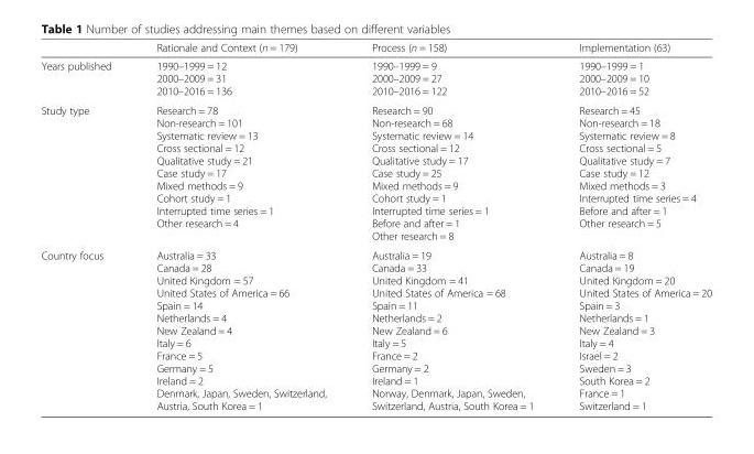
<table><thead><tr><td></td><td>Rationale and Context (n = 179)</td><td>Process (n = 158)</td><td>Implementation (63)</td></tr></thead><tbody><tr><td>Years published</td><td>1990–1999 = 12 2000–2009 = 31 2010–2016 = 136</td><td>1990–1999 = 9 2000–2009 = 27 2010–2016 = 122</td><td>1990–1999 = 1 2000–2009 = 10 2010–2016 = 52</td></tr><tr><td>Study type</td><td>Research = 78 Non-research = 101 Systematic review = 13 Cross sectional = 12 Qualitative study = 21 Case study = 17 Mixed methods = 9 Cohort study = 1 Interrupted time series = 1 Other research = 4</td><td>Research = 90 Non-research = 68 Systematic review = 14 Cross sectional = 12 Qualitative study = 17 Case study = 25 Mixed methods = 9 Cohort study = 1 Interrupted time series = 1 Before and after = 1 Other research = 8</td><td>Research = 45 Non-research = 18 Systematic review = 8 Cross sectional = 5 Qualitative study = 7 Case study = 12 Mixed methods = 3 Interrupted time series = 4 Before and after = 1 Other research = 5</td></tr><tr><td>Country focus</td><td>Australia = 33 Canada = 28 United Kingdom = 57 United States of America = 66 Spain = 14 Netherlands = 4 New Zealand = 4 Italy = 6 France = 5 Germany = 5 Ireland = 2 Denmark, Japan, Sweden, Switzerland, Austria, South Korea = 1</td><td>Australia = 19 Canada = 33 United Kingdom = 41 United States of America = 68 Spain = 11 Netherlands = 2 New Zealand = 6 Italy = 5 France = 2 Germany = 2 Ireland = 1 Norway, Denmark, Japan, Sweden, Switzerland, Austria, South Korea = 1</td><td>Australia = 8 Canada = 19 United Kingdom = 20 United States of America = 20 Spain = 3 Netherlands = 1 New Zealand = 3 Italy = 4 Israel = 2 Sweden = 3 South Korea = 2 France = 1 Switzerland = 1</td></tr></tbody></table>